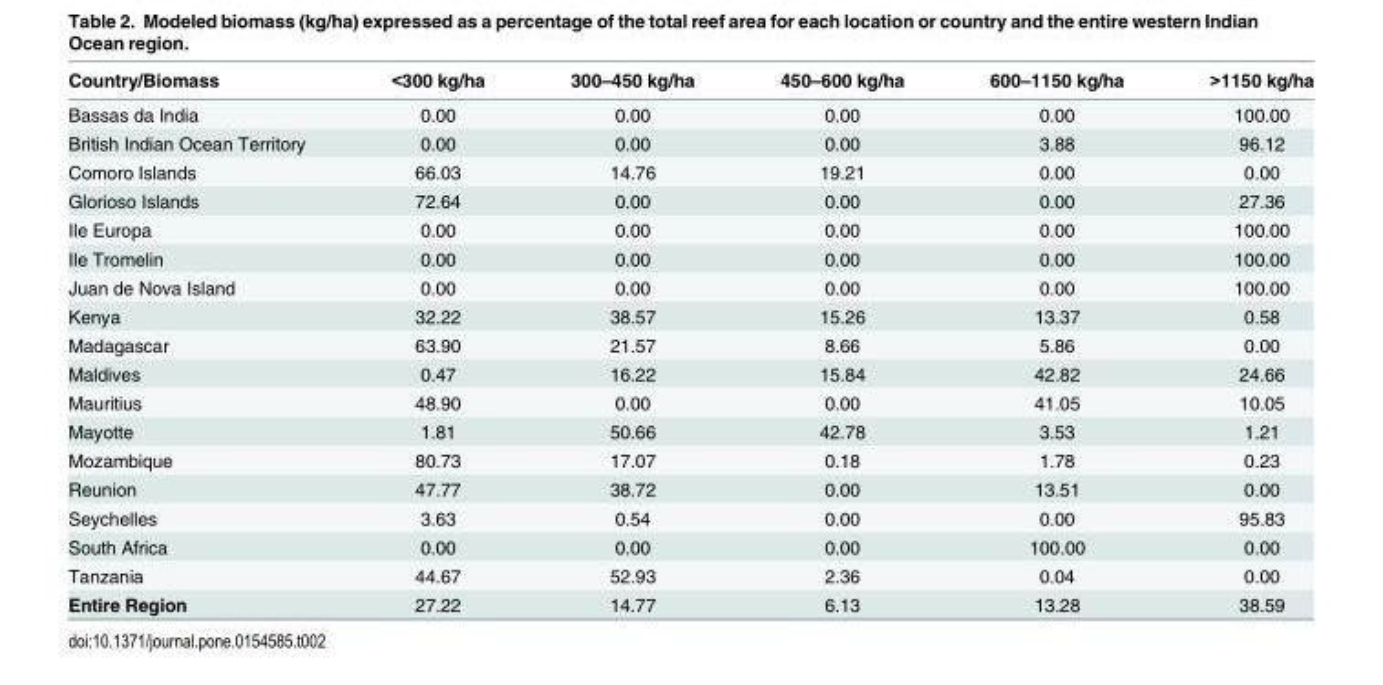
<table><thead><tr><td>Country/Biomass</td><td>&lt;300 kg/ha</td><td>300–450 kg/ha</td><td>450–600 kg/ha</td><td>600–1150 kg/ha</td><td>&gt;1150 kg/ha</td></tr></thead><tbody><tr><td>Bassas da India</td><td>0.00</td><td>0.00</td><td>0.00</td><td>0.00</td><td>100.00</td></tr><tr><td>British Indian Ocean Territory</td><td>0.00</td><td>0.00</td><td>0.00</td><td>3.88</td><td>96.12</td></tr><tr><td>Comoro Islands</td><td>66.03</td><td>14.76</td><td>19.21</td><td>0.00</td><td>0.00</td></tr><tr><td>Glorioso Islands</td><td>72.64</td><td>0.00</td><td>0.00</td><td>0.00</td><td>27.36</td></tr><tr><td>Ile Europa</td><td>0.00</td><td>0.00</td><td>0.00</td><td>0.00</td><td>100.00</td></tr><tr><td>Ile Tromelin</td><td>0.00</td><td>0.00</td><td>0.00</td><td>0.00</td><td>100.00</td></tr><tr><td>Juan de Nova Island</td><td>0.00</td><td>0.00</td><td>0.00</td><td>0.00</td><td>100.00</td></tr><tr><td>Kenya</td><td>32.22</td><td>38.57</td><td>15.26</td><td>13.37</td><td>0.58</td></tr><tr><td>Madagascar</td><td>63.90</td><td>21.57</td><td>8.66</td><td>5.86</td><td>0.00</td></tr><tr><td>Maldives</td><td>0.47</td><td>16.22</td><td>15.84</td><td>42.82</td><td>24.66</td></tr><tr><td>Mauritius</td><td>48.90</td><td>0.00</td><td>0.00</td><td>41.05</td><td>10.05</td></tr><tr><td>Mayotte</td><td>1.81</td><td>50.66</td><td>42.78</td><td>3.53</td><td>1.21</td></tr><tr><td>Mozambique</td><td>80.73</td><td>17.07</td><td>0.18</td><td>1.78</td><td>0.23</td></tr><tr><td>Reunion</td><td>47.77</td><td>38.72</td><td>0.00</td><td>13.51</td><td>0.00</td></tr><tr><td>Seychelles</td><td>3.63</td><td>0.54</td><td>0.00</td><td>0.00</td><td>95.83</td></tr><tr><td>South Africa</td><td>0.00</td><td>0.00</td><td>0.00</td><td>100.00</td><td>0.00</td></tr><tr><td>Tanzania</td><td>44.67</td><td>52.93</td><td>2.36</td><td>0.04</td><td>0.00</td></tr><tr><td>Entire Region</td><td>27.22</td><td>14.77</td><td>6.13</td><td>13.28</td><td>38.59</td></tr></tbody></table>